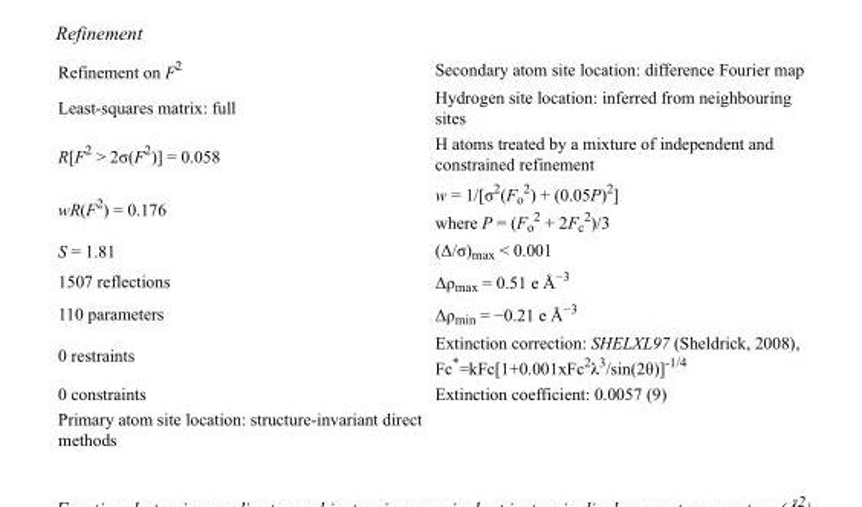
<table><tbody><tr><td>Refinement on F<sup>2</sup></td><td>Secondary atom site location: difference Fourier map</td></tr><tr><td>Least-squares matrix: full</td><td>Hydrogen site location: inferred from neighbouring sites</td></tr><tr><td>R[F<sup>2</sup> &gt; 2σ(F<sup>2</sup>)] = 0.058</td><td>H atoms treated by a mixture of independent and constrained refinement</td></tr><tr><td>wR(F<sup>2</sup>) = 0.176</td><td>w = 1/[σ<sup>2</sup>(F<sub>o</sub> <sup>2</sup>) + (0.05P)<sup>2</sup>] where P = (F<sub>o</sub> <sup>2</sup> + 2F<sub>c</sub> <sup>2</sup>)/3</td></tr><tr><td>S = 1.81</td><td>(Δ/σ)<sub>max</sub> &lt; 0.001</td></tr><tr><td>1507 reflections</td><td>Δρ<sub>max</sub> = 0.51 e Å<sup>−3</sup></td></tr><tr><td>110 parameters</td><td>Δρ<sub>min</sub> = −0.21 e Å<sup>−3</sup></td></tr><tr><td>0 restraints</td><td>Extinction correction: SHELXL97 (Sheldrick, 2008), Fc*=kFc[1+0.001xFc<sup>2</sup>λ<sup>3</sup>/sin(2θ)]<sup>-1/4</sup></td></tr><tr><td>0 constraints</td><td>Extinction coefficient: 0.0057 (9)</td></tr><tr><td>Primary atom site location: structure-invariant direct methods</td><td></td></tr></tbody></table>